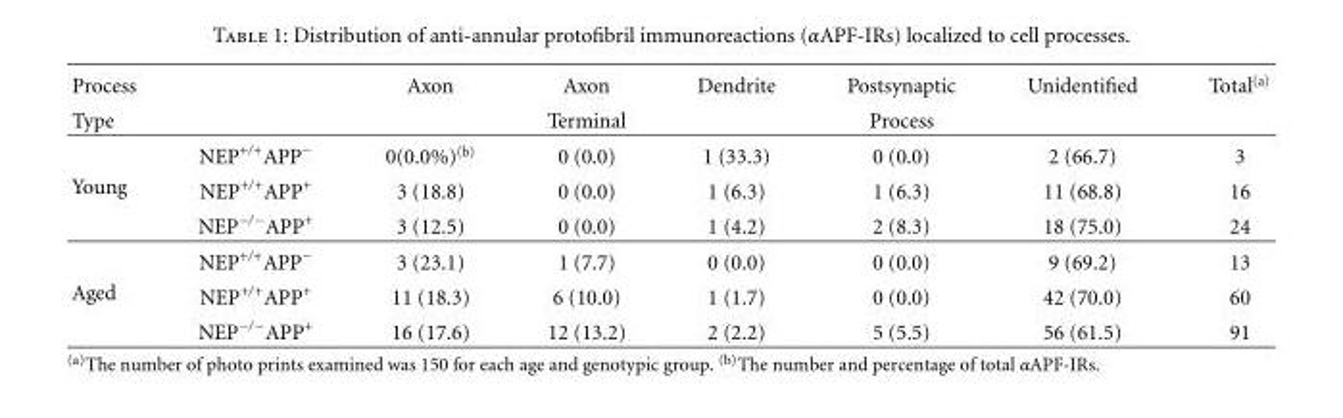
<table><thead><tr><td rowspan="2">Process Type</td><td rowspan="2"></td><td rowspan="2">Axon</td><td rowspan="2">Axon Terminal</td><td rowspan="2">Dendrite</td><td rowspan="2">Postsynaptic Process</td><td rowspan="2">Unidentified</td><td rowspan="2">Total<sup>(a)</sup></td></tr><tr></tr></thead><tbody><tr><td rowspan="3">Young</td><td>NEP<sup>+/+</sup>APP<sup>−</sup></td><td>0(0.0%)<sup>(b)</sup></td><td>0 (0.0)</td><td>1 (33.3)</td><td>0 (0.0)</td><td>2 (66.7)</td><td>3</td></tr><tr><td>NEP<sup>+/+</sup>APP<sup>+</sup></td><td>3 (18.8)</td><td>0 (0.0)</td><td>1 (6.3)</td><td>1 (6.3)</td><td>11 (68.8)</td><td>16</td></tr><tr><td>NEP<sup>−/−</sup>APP<sup>+</sup></td><td>3 (12.5)</td><td>0 (0.0)</td><td>1 (4.2)</td><td>2 (8.3)</td><td>18 (75.0)</td><td>24</td></tr><tr><td rowspan="3">Aged</td><td>NEP<sup>+/+</sup>APP<sup>−</sup></td><td>3 (23.1)</td><td>1 (7.7)</td><td>0 (0.0)</td><td>0 (0.0)</td><td>9 (69.2)</td><td>13</td></tr><tr><td>NEP<sup>+/+</sup>APP<sup>+</sup></td><td>11 (18.3)</td><td>6 (10.0)</td><td>1 (1.7)</td><td>0 (0.0)</td><td>42 (70.0)</td><td>60</td></tr><tr><td>NEP<sup>−/−</sup>APP<sup>+</sup></td><td>16 (17.6)</td><td>12 (13.2)</td><td>2 (2.2)</td><td>5 (5.5)</td><td>56 (61.5)</td><td>91</td></tr></tbody></table>